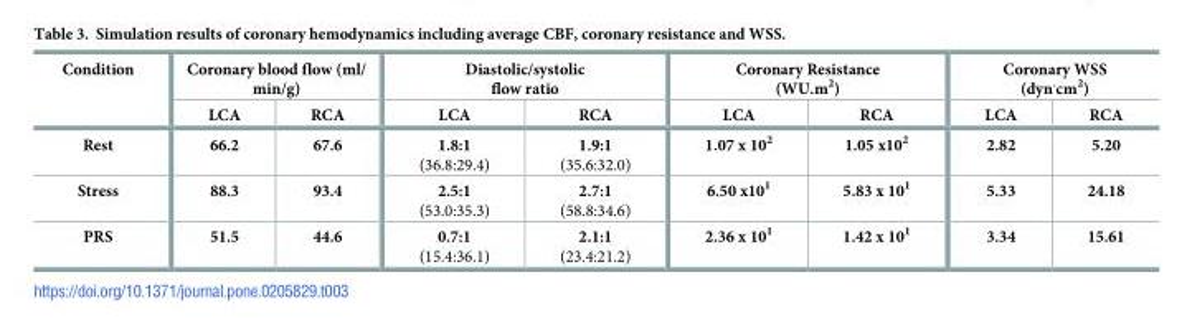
<table><thead><tr><td rowspan="2">Condition</td><td colspan="2">Coronary blood flow (ml/ min/g)</td><td colspan="2">Diastolic/systolic flow ratio</td><td colspan="2">Coronary Resistance (WU.m<sup>2</sup>)</td><td colspan="2">Coronary WSS (dyn<sup>.</sup>cm<sup>2</sup>)</td></tr><tr><td>LCA</td><td>RCA</td><td>LCA</td><td>RCA</td><td>LCA</td><td>RCA</td><td>LCA</td><td>RCA</td></tr></thead><tbody><tr><td>Rest</td><td>66.2</td><td>67.6</td><td>1.8:1 (36.8:29.4)</td><td>1.9:1 (35.6:32.0)</td><td>1.07 x 10<sup>2</sup></td><td>1.05 x10<sup>2</sup></td><td>2.82</td><td>5.20</td></tr><tr><td>Stress</td><td>88.3</td><td>93.4</td><td>2.5:1 (53.0:35.3)</td><td>2.7:1 (58.8:34.6)</td><td>6.50 x10<sup>1</sup></td><td>5.83 x 10<sup>1</sup></td><td>5.33</td><td>24.18</td></tr><tr><td>PRS</td><td>51.5</td><td>44.6</td><td>0.7:1 (15.4:36.1)</td><td>2.1:1 (23.4:21.2)</td><td>2.36 x 10<sup>1</sup></td><td>1.42 x 10<sup>1</sup></td><td>3.34</td><td>15.61</td></tr></tbody></table>